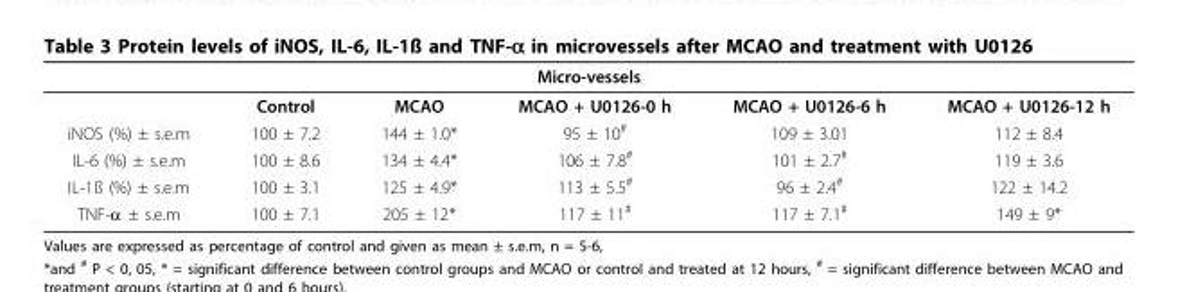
<table><thead><tr><td colspan="6">Micro-vessels</td></tr><tr><td></td><td>Control</td><td>MCAO</td><td>MCAO + U0126-0 h</td><td>MCAO + U0126-6 h</td><td>MCAO + U0126-12 h</td></tr></thead><tbody><tr><td>iNOS (%) ± s.e.m</td><td>100 ± 7.2</td><td>144 ± 1.0*</td><td>95 ± 10<sup>#</sup></td><td>109 ± 3.01</td><td>112 ± 8.4</td></tr><tr><td>IL-6 (%) ± s.e.m</td><td>100 ± 8.6</td><td>134 ± 4.4*</td><td>106 ± 7.8<sup>#</sup></td><td>101 ± 2.7<sup>#</sup></td><td>119 ± 3.6</td></tr><tr><td>IL-1ß (%) ± s.e.m</td><td>100 ± 3.1</td><td>125 ± 4.9*</td><td>113 ± 5.5<sup>#</sup></td><td>96 ± 2.4<sup>#</sup></td><td>122 ± 14.2</td></tr><tr><td>TNF-α ± s.e.m</td><td>100 ± 7.1</td><td>205 ± 12*</td><td>117 ± 11<sup>#</sup></td><td>117 ± 7.1<sup>#</sup></td><td>149 ± 9*</td></tr></tbody></table>